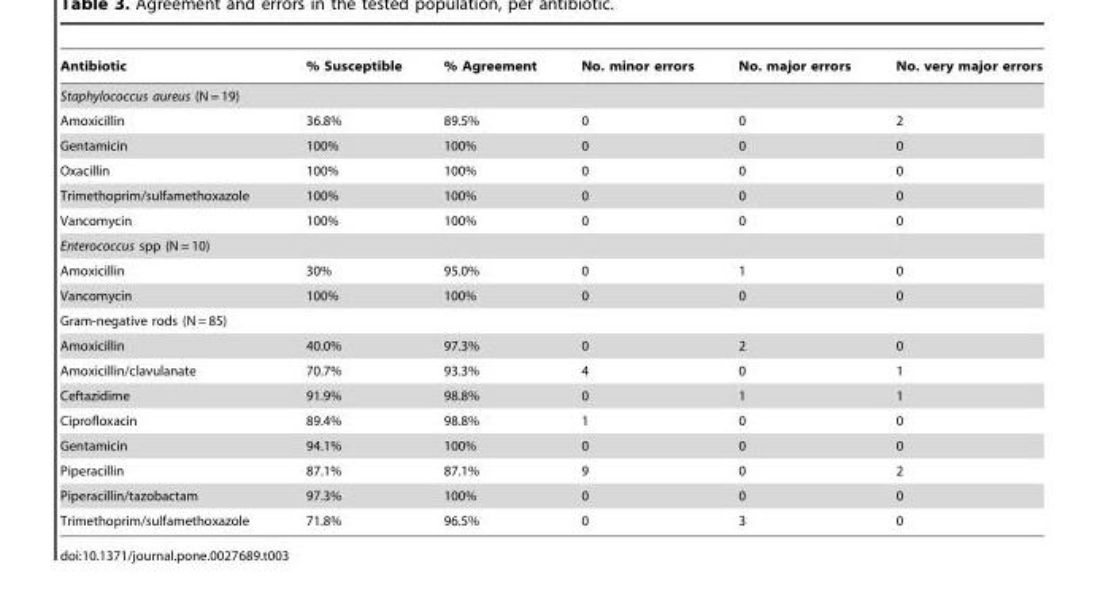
<table><thead><tr><td>Antibiotic</td><td>% Susceptible</td><td>% Agreement</td><td>No. minor errors</td><td>No. major errors</td><td>No. very major errors</td></tr></thead><tbody><tr><td colspan="6">Staphylococcus aureus (N = 19)</td></tr><tr><td>Amoxicillin</td><td>36.8%</td><td>89.5%</td><td>0</td><td>0</td><td>2</td></tr><tr><td>Gentamicin</td><td>100%</td><td>100%</td><td>0</td><td>0</td><td>0</td></tr><tr><td>Oxacillin</td><td>100%</td><td>100%</td><td>0</td><td>0</td><td>0</td></tr><tr><td>Trimethoprim/sulfamethoxazole</td><td>100%</td><td>100%</td><td>0</td><td>0</td><td>0</td></tr><tr><td>Vancomycin</td><td>100%</td><td>100%</td><td>0</td><td>0</td><td>0</td></tr><tr><td colspan="6">Enterococcus spp (N = 10)</td></tr><tr><td>Amoxicillin</td><td>30%</td><td>95.0%</td><td>0</td><td>1</td><td>0</td></tr><tr><td>Vancomycin</td><td>100%</td><td>100%</td><td>0</td><td>0</td><td>0</td></tr><tr><td colspan="6">Gram-negative rods (N = 85)</td></tr><tr><td>Amoxicillin</td><td>40.0%</td><td>97.3%</td><td>0</td><td>2</td><td>0</td></tr><tr><td>Amoxicillin/clavulanate</td><td>70.7%</td><td>93.3%</td><td>4</td><td>0</td><td>1</td></tr><tr><td>Ceftazidime</td><td>91.9%</td><td>98.8%</td><td>0</td><td>1</td><td>1</td></tr><tr><td>Ciprofloxacin</td><td>89.4%</td><td>98.8%</td><td>1</td><td>0</td><td>0</td></tr><tr><td>Gentamicin</td><td>94.1%</td><td>100%</td><td>0</td><td>0</td><td>0</td></tr><tr><td>Piperacillin</td><td>87.1%</td><td>87.1%</td><td>9</td><td>0</td><td>2</td></tr><tr><td>Piperacillin/tazobactam</td><td>97.3%</td><td>100%</td><td>0</td><td>0</td><td>0</td></tr><tr><td>Trimethoprim/sulfamethoxazole</td><td>71.8%</td><td>96.5%</td><td>0</td><td>3</td><td>0</td></tr></tbody></table>